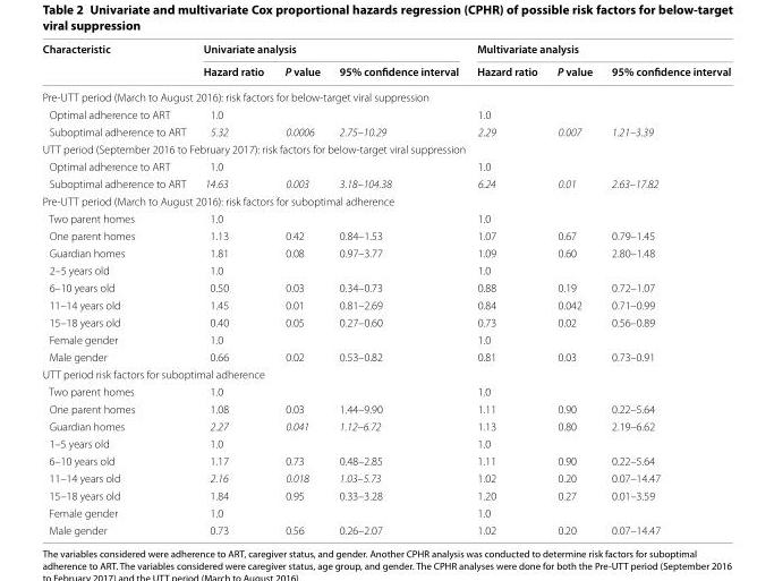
<table><thead><tr><td rowspan="2">Characteristic</td><td colspan="3">Univariate analysis</td><td colspan="3">Multivariate analysis</td></tr><tr><td>Hazard ratio</td><td>P value</td><td>95% confidence interval</td><td>Hazard ratio</td><td>P value</td><td>95% confidence interval</td></tr></thead><tbody><tr><td colspan="7">Pre-UTT period (March to August 2016): risk factors for below-target viral suppression</td></tr><tr><td>Optimal adherence to ART</td><td>1.0</td><td></td><td></td><td>1.0</td><td></td><td></td></tr><tr><td>Suboptimal adherence to ART</td><td>5.32</td><td>0.0006</td><td>2.75–10.29</td><td>2.29</td><td>0.007</td><td>1.21–3.39</td></tr><tr><td colspan="7">UTT period (September 2016 to February 2017): risk factors for below-target viral suppression</td></tr><tr><td>Optimal adherence to ART</td><td>1.0</td><td></td><td></td><td>1.0</td><td></td><td></td></tr><tr><td>Suboptimal adherence to ART</td><td>14.63</td><td>0.003</td><td>3.18–104.38</td><td>6.24</td><td>0.01</td><td>2.63–17.82</td></tr><tr><td colspan="7">Pre-UTT period (March to August 2016): risk factors for suboptimal adherence</td></tr><tr><td>Two parent homes</td><td>1.0</td><td></td><td></td><td>1.0</td><td></td><td></td></tr><tr><td>One parent homes</td><td>1.13</td><td>0.42</td><td>0.84–1.53</td><td>1.07</td><td>0.67</td><td>0.79–1.45</td></tr><tr><td>Guardian homes</td><td>1.81</td><td>0.08</td><td>0.97–3.77</td><td>1.09</td><td>0.60</td><td>2.80–1.48</td></tr><tr><td>2–5 years old</td><td>1.0</td><td></td><td></td><td>1.0</td><td></td><td></td></tr><tr><td>6–10 years old</td><td>0.50</td><td>0.03</td><td>0.34–0.73</td><td>0.88</td><td>0.19</td><td>0.72–1.07</td></tr><tr><td>11–14 years old</td><td>1.45</td><td>0.01</td><td>0.81–2.69</td><td>0.84</td><td>0.042</td><td>0.71–0.99</td></tr><tr><td>15–18 years old</td><td>0.40</td><td>0.05</td><td>0.27–0.60</td><td>0.73</td><td>0.02</td><td>0.56–0.89</td></tr><tr><td>Female gender</td><td>1.0</td><td></td><td></td><td>1.0</td><td></td><td></td></tr><tr><td>Male gender</td><td>0.66</td><td>0.02</td><td>0.53–0.82</td><td>0.81</td><td>0.03</td><td>0.73–0.91</td></tr><tr><td colspan="7">UTT period risk factors for suboptimal adherence</td></tr><tr><td>Two parent homes</td><td>1.0</td><td></td><td></td><td>1.0</td><td></td><td></td></tr><tr><td>One parent homes</td><td>1.08</td><td>0.03</td><td>1.44–9.90</td><td>1.11</td><td>0.90</td><td>0.22–5.64</td></tr><tr><td>Guardian homes</td><td>2.27</td><td>0.041</td><td>1.12–6.72</td><td>1.13</td><td>0.80</td><td>2.19–6.62</td></tr><tr><td>1–5 years old</td><td>1.0</td><td></td><td></td><td>1.0</td><td></td><td></td></tr><tr><td>6–10 years old</td><td>1.17</td><td>0.73</td><td>0.48–2.85</td><td>1.11</td><td>0.90</td><td>0.22–5.64</td></tr><tr><td>11–14 years old</td><td>2.16</td><td>0.018</td><td>1.03–5.73</td><td>1.02</td><td>0.20</td><td>0.07–14.47</td></tr><tr><td>15–18 years old</td><td>1.84</td><td>0.95</td><td>0.33–3.28</td><td>1.20</td><td>0.27</td><td>0.01–3.59</td></tr><tr><td>Female gender</td><td>1.0</td><td></td><td></td><td>1.0</td><td></td><td></td></tr><tr><td>Male gender</td><td>0.73</td><td>0.56</td><td>0.26–2.07</td><td>1.02</td><td>0.20</td><td>0.07–14.47</td></tr></tbody></table>